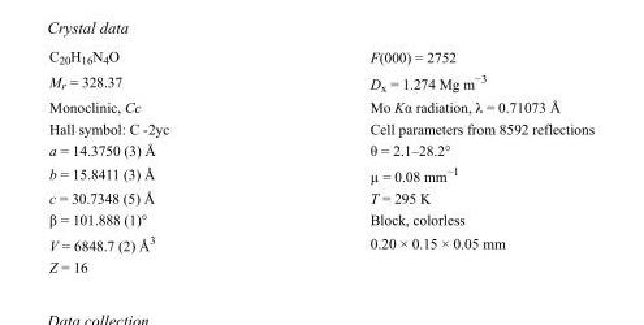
<table><tbody><tr><td>C<sub>20</sub>H<sub>16</sub>N<sub>4</sub>O</td><td>F(000) = 2752</td></tr><tr><td>M<sub>r</sub> = 328.37</td><td>D<sub>x</sub> = 1.274 Mg m<sup>−3</sup></td></tr><tr><td>Monoclinic, Cc</td><td>Mo Kα radiation, λ = 0.71073 Å</td></tr><tr><td>Hall symbol: C -2yc</td><td>Cell parameters from 8592 reflections</td></tr><tr><td>a = 14.3750 (3) Å</td><td>θ = 2.1–28.2°</td></tr><tr><td>b = 15.8411 (3) Å</td><td>µ = 0.08 mm<sup>−1</sup></td></tr><tr><td>c = 30.7348 (5) Å</td><td>T = 295 K</td></tr><tr><td>β = 101.888 (1)°</td><td>Block, colorless</td></tr><tr><td>V = 6848.7 (2) Å<sup>3</sup></td><td>0.20 × 0.15 × 0.05 mm</td></tr><tr><td>Z = 16</td><td></td></tr></tbody></table>